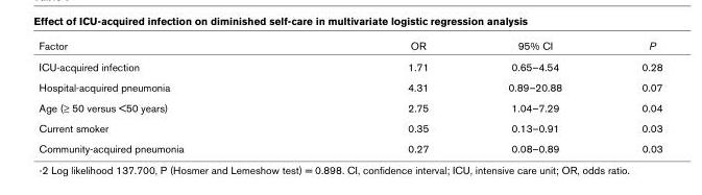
<table><thead><tr><td>Factor</td><td>OR</td><td>95% CI</td><td>P</td></tr></thead><tbody><tr><td>ICU-acquired infection</td><td>1.71</td><td>0.65–4.54</td><td>0.28</td></tr><tr><td>Hospital-acquired pneumonia</td><td>4.31</td><td>0.89–20.88</td><td>0.07</td></tr><tr><td>Age (≥ 50 versus &lt;50 years)</td><td>2.75</td><td>1.04–7.29</td><td>0.04</td></tr><tr><td>Current smoker</td><td>0.35</td><td>0.13–0.91</td><td>0.03</td></tr><tr><td>Community-acquired pneumonia</td><td>0.27</td><td>0.08–0.89</td><td>0.03</td></tr></tbody></table>